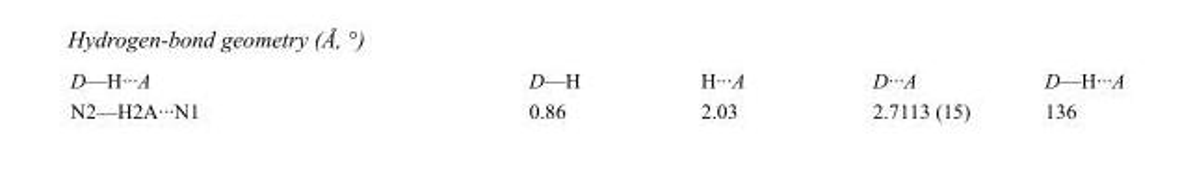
<table><tbody><tr><td>D—H···A</td><td>D—H</td><td>H···A</td><td>D···A</td><td>D—H···A</td></tr><tr><td>N2—H2A···N1</td><td>0.86</td><td>2.03</td><td>2.7113 (15)</td><td>136</td></tr></tbody></table>